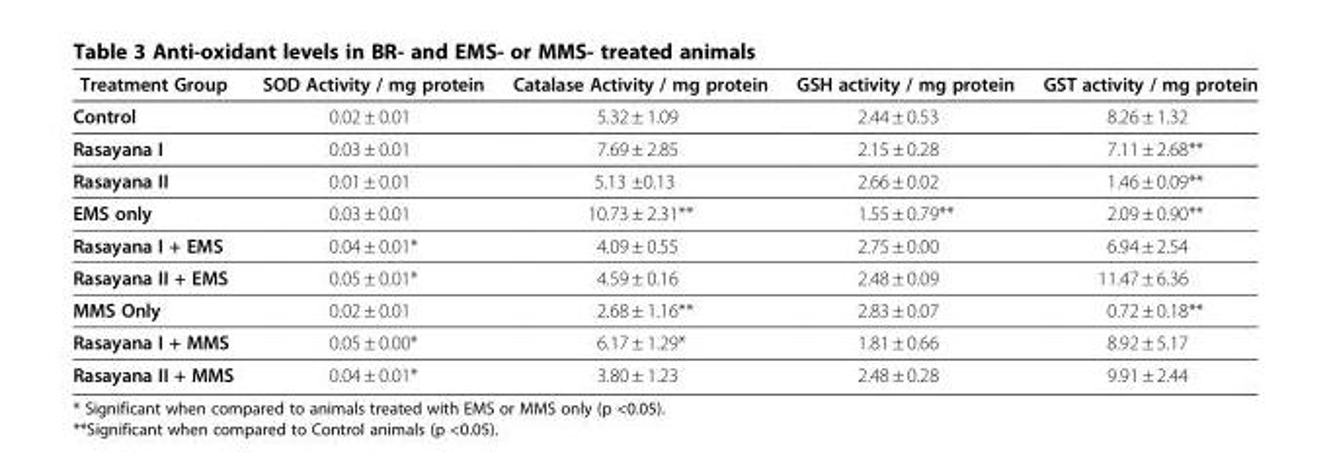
<table><thead><tr><td>Treatment Group</td><td>SOD Activity / mg protein</td><td>Catalase Activity / mg protein</td><td>GSH activity / mg protein</td><td>GST activity / mg protein</td></tr></thead><tbody><tr><td>Control</td><td>0.02 ± 0.01</td><td>5.32 ± 1.09</td><td>2.44 ± 0.53</td><td>8.26 ± 1.32</td></tr><tr><td>Rasayana I</td><td>0.03 ± 0.01</td><td>7.69 ± 2.85</td><td>2.15 ± 0.28</td><td>7.11 ± 2.68**</td></tr><tr><td>Rasayana II</td><td>0.01 ± 0.01</td><td>5.13 ±0.13</td><td>2.66 ± 0.02</td><td>1.46 ± 0.09**</td></tr><tr><td>EMS only</td><td>0.03 ± 0.01</td><td>10.73 ± 2.31**</td><td>1.55 ± 0.79**</td><td>2.09 ± 0.90**</td></tr><tr><td>Rasayana I + EMS</td><td>0.04 ± 0.01*</td><td>4.09 ± 0.55</td><td>2.75 ± 0.00</td><td>6.94 ± 2.54</td></tr><tr><td>Rasayana II + EMS</td><td>0.05 ± 0.01*</td><td>4.59 ± 0.16</td><td>2.48 ± 0.09</td><td>11.47 ± 6.36</td></tr><tr><td>MMS Only</td><td>0.02 ± 0.01</td><td>2.68 ± 1.16**</td><td>2.83 ± 0.07</td><td>0.72 ± 0.18**</td></tr><tr><td>Rasayana I + MMS</td><td>0.05 ± 0.00*</td><td>6.17 ± 1.29*</td><td>1.81 ± 0.66</td><td>8.92 ± 5.17</td></tr><tr><td>Rasayana II + MMS</td><td>0.04 ± 0.01*</td><td>3.80 ± 1.23</td><td>2.48 ± 0.28</td><td>9.91 ± 2.44</td></tr></tbody></table>